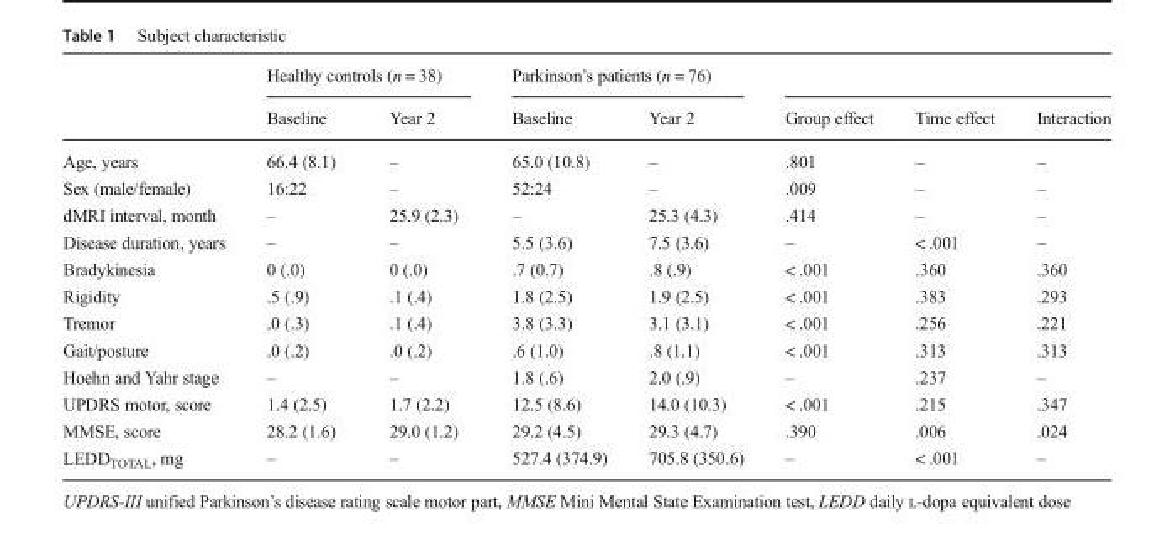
<table><thead><tr><td rowspan="2"></td><td colspan="2">Healthy controls (n = 38)</td><td colspan="2">Parkinson’s patients (n = 76)</td><td rowspan="2">Group effect</td><td rowspan="2">Time effect</td><td rowspan="2">Interaction</td></tr><tr><td>Baseline</td><td>Year 2</td><td>Baseline</td><td>Year 2</td></tr></thead><tbody><tr><td>Age, years</td><td>66.4 (8.1)</td><td>–</td><td>65.0 (10.8)</td><td>–</td><td>.801</td><td>–</td><td>–</td></tr><tr><td>Sex (male/female)</td><td>16:22</td><td>–</td><td>52:24</td><td>–</td><td>.009</td><td>–</td><td>–</td></tr><tr><td>dMRI interval, month</td><td>–</td><td>25.9 (2.3)</td><td>–</td><td>25.3 (4.3)</td><td>.414</td><td>–</td><td>–</td></tr><tr><td>Disease duration, years</td><td>–</td><td>–</td><td>5.5 (3.6)</td><td>7.5 (3.6)</td><td>–</td><td>&lt; .001</td><td>–</td></tr><tr><td>Bradykinesia</td><td>0 (.0)</td><td>0 (.0)</td><td>.7 (0.7)</td><td>.8 (.9)</td><td>&lt; .001</td><td>.360</td><td>.360</td></tr><tr><td>Rigidity</td><td>.5 (.9)</td><td>.1 (.4)</td><td>1.8 (2.5)</td><td>1.9 (2.5)</td><td>&lt; .001</td><td>.383</td><td>.293</td></tr><tr><td>Tremor</td><td>.0 (.3)</td><td>.1 (.4)</td><td>3.8 (3.3)</td><td>3.1 (3.1)</td><td>&lt; .001</td><td>.256</td><td>.221</td></tr><tr><td>Gait/posture</td><td>.0 (.2)</td><td>.0 (.2)</td><td>.6 (1.0)</td><td>.8 (1.1)</td><td>&lt; .001</td><td>.313</td><td>.313</td></tr><tr><td>Hoehn and Yahr stage</td><td>–</td><td>–</td><td>1.8 (.6)</td><td>2.0 (.9)</td><td>–</td><td>.237</td><td>–</td></tr><tr><td>UPDRS motor, score</td><td>1.4 (2.5)</td><td>1.7 (2.2)</td><td>12.5 (8.6)</td><td>14.0 (10.3)</td><td>&lt; .001</td><td>.215</td><td>.347</td></tr><tr><td>MMSE, score</td><td>28.2 (1.6)</td><td>29.0 (1.2)</td><td>29.2 (4.5)</td><td>29.3 (4.7)</td><td>.390</td><td>.006</td><td>.024</td></tr><tr><td>LEDD<sub>TOTAL</sub>, mg</td><td>–</td><td>–</td><td>527.4 (374.9)</td><td>705.8 (350.6)</td><td>–</td><td>&lt; .001</td><td>–</td></tr></tbody></table>